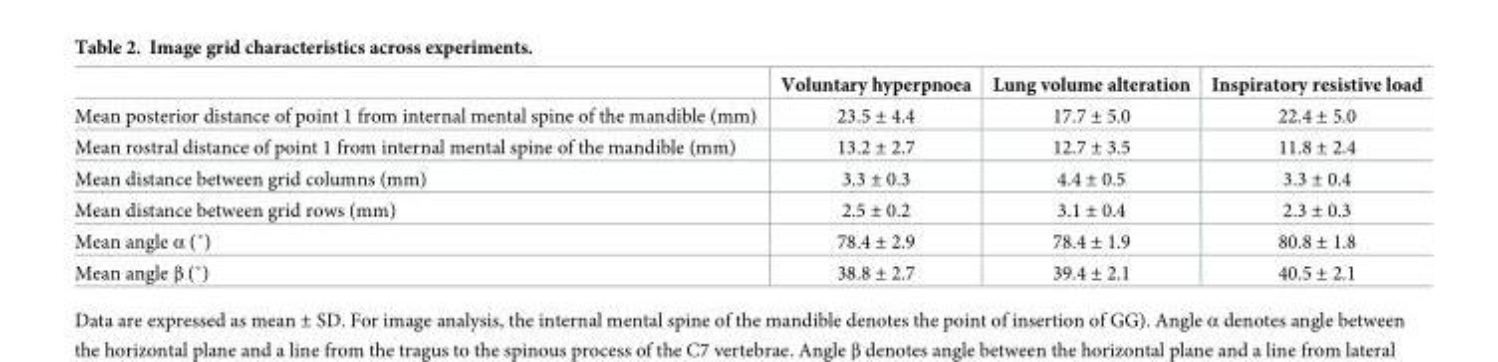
<table><thead><tr><td></td><td>Voluntary hyperpnoea</td><td>Lung volume alteration</td><td>Inspiratory resistive load</td></tr></thead><tbody><tr><td>Mean posterior distance of point 1 from internal mental spine of the mandible (mm)</td><td>23.5 ± 4.4</td><td>17.7 ± 5.0</td><td>22.4 ± 5.0</td></tr><tr><td>Mean rostral distance of point 1 from internal mental spine of the mandible (mm)</td><td>13.2 ± 2.7</td><td>12.7 ± 3.5</td><td>11.8 ± 2.4</td></tr><tr><td>Mean distance between grid columns (mm)</td><td>3.3 ± 0.3</td><td>4.4 ± 0.5</td><td>3.3 ± 0.4</td></tr><tr><td>Mean distance between grid rows (mm)</td><td>2.5 ± 0.2</td><td>3.1 ± 0.4</td><td>2.3 ± 0.3</td></tr><tr><td>Mean angle α (˚)</td><td>78.4 ± 2.9</td><td>78.4 ± 1.9</td><td>80.8 ± 1.8</td></tr><tr><td>Mean angle β (˚)</td><td>38.8 ± 2.7</td><td>39.4 ± 2.1</td><td>40.5 ± 2.1</td></tr></tbody></table>